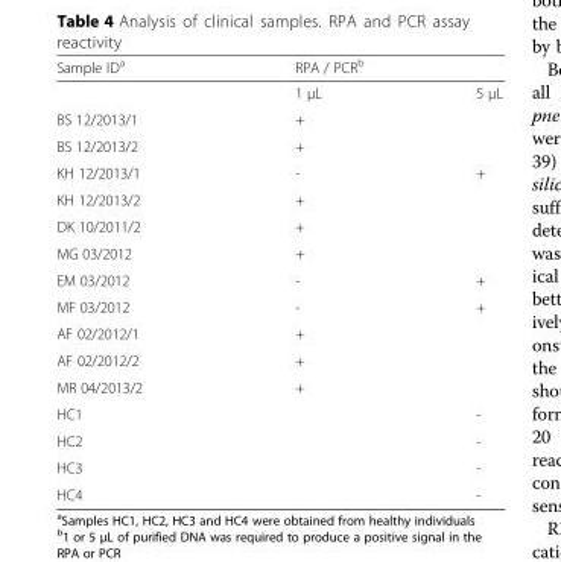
<table><thead><tr><td rowspan="2">Sample ID<sup>a</sup></td><td colspan="2">RPA / PCR<sup>b</sup></td></tr><tr><td>1 μL</td><td>5 μL</td></tr></thead><tbody><tr><td>BS 12/2013/1</td><td>+</td><td></td></tr><tr><td>BS 12/2013/2</td><td>+</td><td></td></tr><tr><td>KH 12/2013/1</td><td>-</td><td>+</td></tr><tr><td>KH 12/2013/2</td><td>+</td><td></td></tr><tr><td>DK 10/2011/2</td><td>+</td><td></td></tr><tr><td>MG 03/2012</td><td>+</td><td></td></tr><tr><td>EM 03/2012</td><td>-</td><td>+</td></tr><tr><td>MF 03/2012</td><td>-</td><td>+</td></tr><tr><td>AF 02/2012/1</td><td>+</td><td></td></tr><tr><td>AF 02/2012/2</td><td>+</td><td></td></tr><tr><td>MR 04/2013/2</td><td>+</td><td></td></tr><tr><td>HC1</td><td></td><td>-</td></tr><tr><td>HC2</td><td></td><td>-</td></tr><tr><td>HC3</td><td></td><td>-</td></tr><tr><td>HC4</td><td></td><td>-</td></tr></tbody></table>